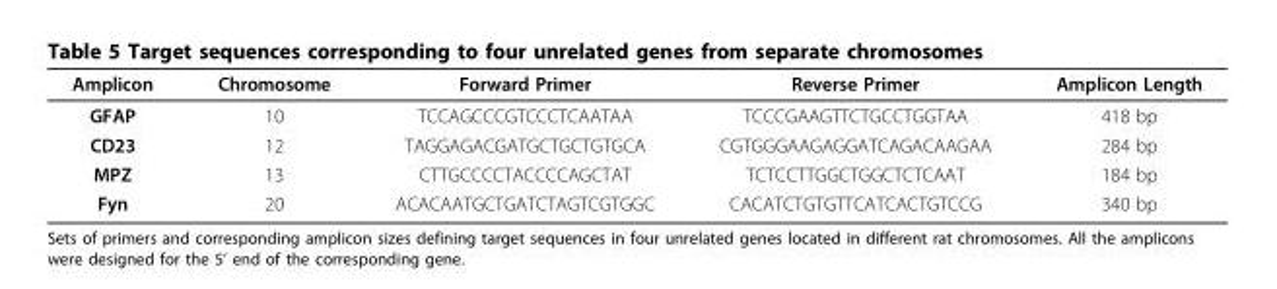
<table><thead><tr><td>Amplicon</td><td>Chromosome</td><td>Forward Primer</td><td>Reverse Primer</td><td>Amplicon Length</td></tr></thead><tbody><tr><td>GFAP</td><td>10</td><td>TCCAGCCCGTCCCTCAATAA</td><td>TCCCGAAGTTCTGCCTGGTAA</td><td>418 bp</td></tr><tr><td>CD23</td><td>12</td><td>TAGGAGACGATGCTGCTGTGCA</td><td>CGTGGGAAGAGGATCAGACAAGAA</td><td>284 bp</td></tr><tr><td>MPZ</td><td>13</td><td>CTTGCCCCTACCCCAGCTAT</td><td>TCTCCTTGGCTGGCTCTCAAT</td><td>184 bp</td></tr><tr><td>Fyn</td><td>20</td><td>ACACAATGCTGATCTAGTCGTGGC</td><td>CACATCTGTGTTCATCACTGTCCG</td><td>340 bp</td></tr></tbody></table>